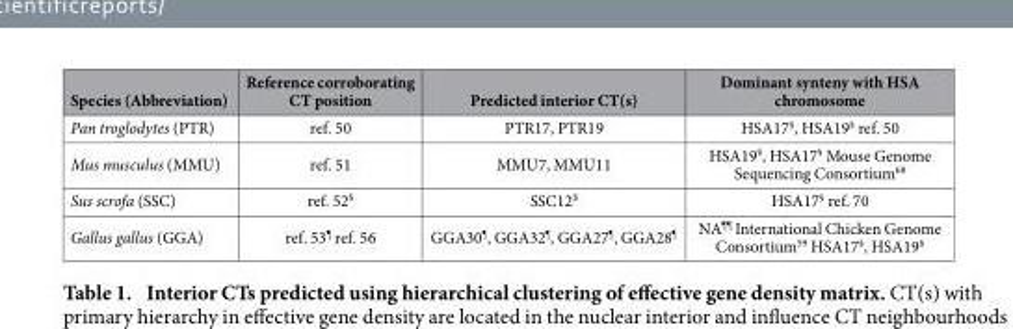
<table><thead><tr><td>Species (Abbreviation)</td><td>Reference corroborating CT position</td><td>Predicted interior CT(s)</td><td>Dominant synteny with HSA chromosome</td></tr></thead><tbody><tr><td>Pan troglodytes (PTR)</td><td>ref. 50</td><td>PTR17, PTR19</td><td>HSA17<sup>§</sup>, HSA19<sup>§</sup> ref. 50</td></tr><tr><td>Mus musculus (MMU)</td><td>ref. 51</td><td>MMU7, MMU11</td><td>HSA19<sup>§</sup>, HSA17<sup>§</sup> Mouse Genome Sequencing Consortium<sup>68</sup></td></tr><tr><td>Sus scrofa (SSC)</td><td>ref. 52<sup>$</sup></td><td>SSC12<sup>$</sup></td><td>HSA17<sup>§</sup> ref. 70</td></tr><tr><td>Gallus gallus (GGA)</td><td>ref. 53<sup>¶</sup> ref. 56</td><td>GGA30<sup>¶</sup>, GGA32<sup>¶</sup>, GGA27<sup>¶</sup>, GGA28<sup>¶</sup></td><td>NA<sup>¶¶</sup> International Chicken Genome Consortium<sup>59</sup> HSA17<sup>§</sup>, HSA19<sup>§</sup></td></tr></tbody></table>